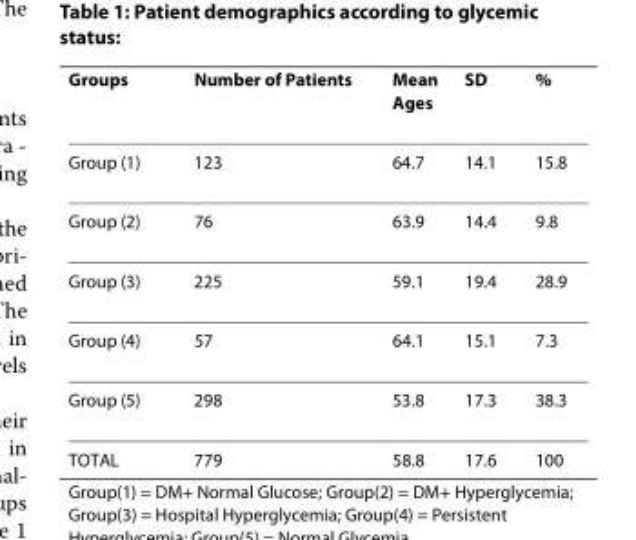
<table><thead><tr><td>Groups</td><td>Number of Patients</td><td>Mean Ages</td><td>SD</td><td>%</td></tr></thead><tbody><tr><td>Group (1)</td><td>123</td><td>64.7</td><td>14.1</td><td>15.8</td></tr><tr><td>Group (2)</td><td>76</td><td>63.9</td><td>14.4</td><td>9.8</td></tr><tr><td>Group (3)</td><td>225</td><td>59.1</td><td>19.4</td><td>28.9</td></tr><tr><td>Group (4)</td><td>57</td><td>64.1</td><td>15.1</td><td>7.3</td></tr><tr><td>Group (5)</td><td>298</td><td>53.8</td><td>17.3</td><td>38.3</td></tr><tr><td>TOTAL</td><td>779</td><td>58.8</td><td>17.6</td><td>100</td></tr></tbody></table>